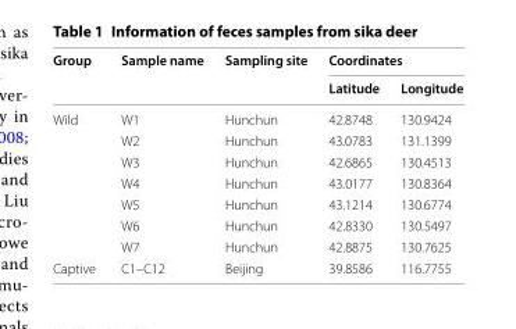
<table><thead><tr><td rowspan="2">Group</td><td rowspan="2">Sample name</td><td rowspan="2">Sampling site</td><td colspan="2">Coordinates</td></tr><tr><td>Latitude</td><td>Longitude</td></tr></thead><tbody><tr><td rowspan="7">Wild</td><td>W1</td><td>Hunchun</td><td>42.8748</td><td>130.9424</td></tr><tr><td>W2</td><td>Hunchun</td><td>43.0783</td><td>131.1399</td></tr><tr><td>W3</td><td>Hunchun</td><td>42.6865</td><td>130.4513</td></tr><tr><td>W4</td><td>Hunchun</td><td>43.0177</td><td>130.8364</td></tr><tr><td>W5</td><td>Hunchun</td><td>43.1214</td><td>130.6774</td></tr><tr><td>W6</td><td>Hunchun</td><td>42.8330</td><td>130.5497</td></tr><tr><td>W7</td><td>Hunchun</td><td>42.8875</td><td>130.7625</td></tr><tr><td>Captive</td><td>C1–C12</td><td>Beijing</td><td>39.8586</td><td>116.7755</td></tr></tbody></table>